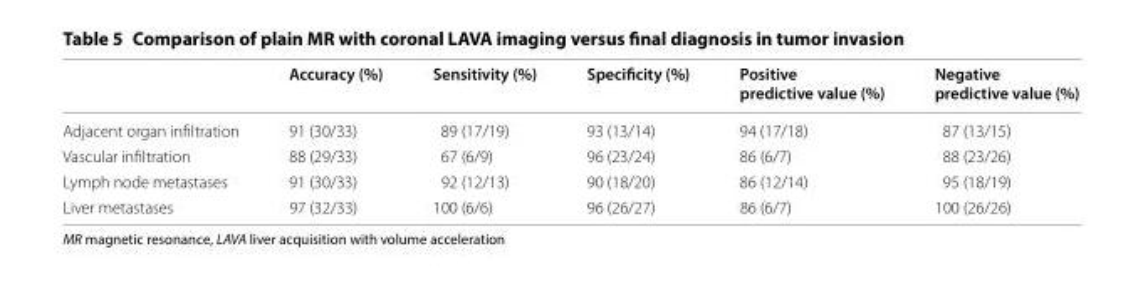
<table><thead><tr><td></td><td>Accuracy (%)</td><td>Sensitivity (%)</td><td>Specificity (%)</td><td>Positive predictive value (%)</td><td>Negative predictive value (%)</td></tr></thead><tbody><tr><td>Adjacent organ infiltration</td><td>91 (30/33)</td><td>89 (17/19)</td><td>93 (13/14)</td><td>94 (17/18)</td><td>87 (13/15)</td></tr><tr><td>Vascular infiltration</td><td>88 (29/33)</td><td>67 (6/9)</td><td>96 (23/24)</td><td>86 (6/7)</td><td>88 (23/26)</td></tr><tr><td>Lymph node metastases</td><td>91 (30/33)</td><td>92 (12/13)</td><td>90 (18/20)</td><td>86 (12/14)</td><td>95 (18/19)</td></tr><tr><td>Liver metastases</td><td>97 (32/33)</td><td>100 (6/6)</td><td>96 (26/27)</td><td>86 (6/7)</td><td>100 (26/26)</td></tr></tbody></table>